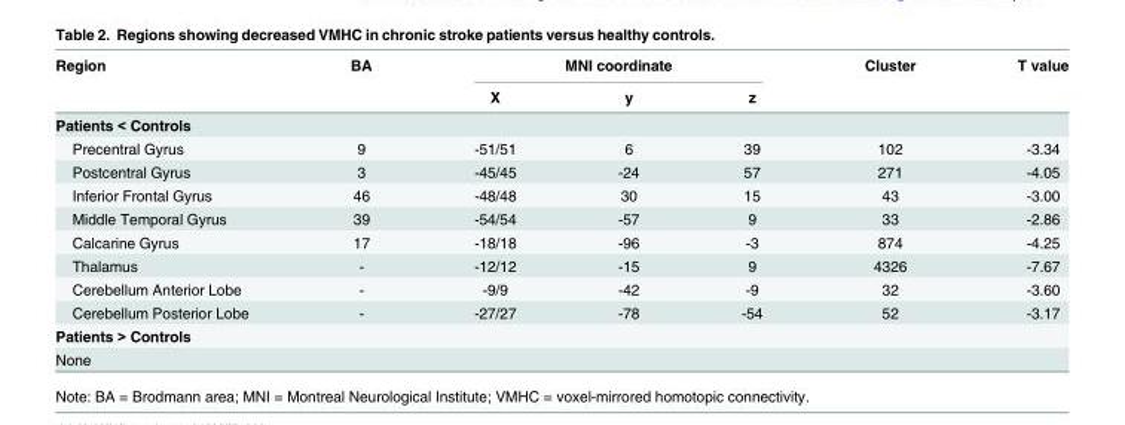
<table><thead><tr><td rowspan="2">Region</td><td rowspan="2">BA</td><td colspan="3">MNI coordinate</td><td rowspan="2">Cluster</td><td rowspan="2">T value</td></tr><tr><td>X</td><td>y</td><td>z</td></tr></thead><tbody><tr><td colspan="7">Patients &lt; Controls</td></tr><tr><td>Precentral Gyrus</td><td>9</td><td>-51/51</td><td>6</td><td>39</td><td>102</td><td>-3.34</td></tr><tr><td>Postcentral Gyrus</td><td>3</td><td>-45/45</td><td>-24</td><td>57</td><td>271</td><td>-4.05</td></tr><tr><td>Inferior Frontal Gyrus</td><td>46</td><td>-48/48</td><td>30</td><td>15</td><td>43</td><td>-3.00</td></tr><tr><td>Middle Temporal Gyrus</td><td>39</td><td>-54/54</td><td>-57</td><td>9</td><td>33</td><td>-2.86</td></tr><tr><td>Calcarine Gyrus</td><td>17</td><td>-18/18</td><td>-96</td><td>-3</td><td>874</td><td>-4.25</td></tr><tr><td>Thalamus</td><td>-</td><td>-12/12</td><td>-15</td><td>9</td><td>4326</td><td>-7.67</td></tr><tr><td>Cerebellum Anterior Lobe</td><td>-</td><td>-9/9</td><td>-42</td><td>-9</td><td>32</td><td>-3.60</td></tr><tr><td>Cerebellum Posterior Lobe</td><td>-</td><td>-27/27</td><td>-78</td><td>-54</td><td>52</td><td>-3.17</td></tr><tr><td colspan="7">Patients &gt; Controls</td></tr><tr><td>None</td><td></td><td></td><td></td><td></td><td></td><td></td></tr></tbody></table>